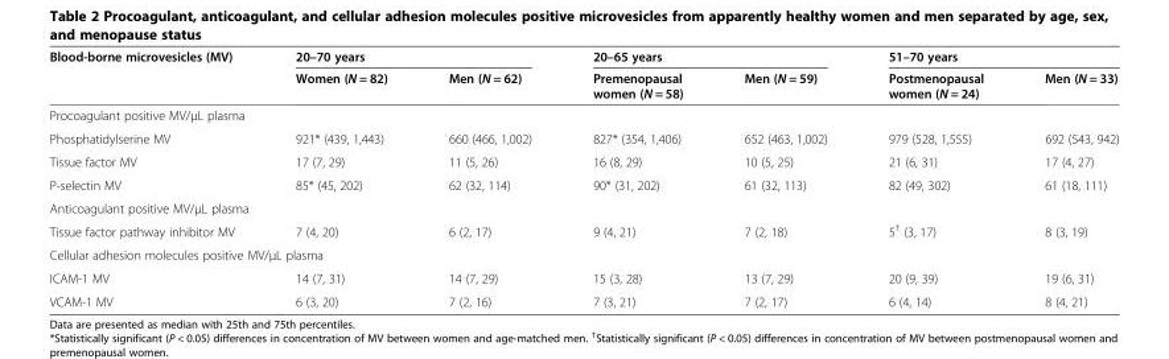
<table><thead><tr><td rowspan="2">Blood-borne microvesicles (MV)</td><td colspan="2">20–70 years</td><td colspan="2">20–65 years</td><td colspan="2">51–70 years</td></tr><tr><td>Women (N = 82)</td><td>Men (N = 62)</td><td>Premenopausal women (N = 58)</td><td>Men (N = 59)</td><td>Postmenopausal women (N = 24)</td><td>Men (N = 33)</td></tr></thead><tbody><tr><td colspan="7">Procoagulant positive MV/μL plasma</td></tr><tr><td>Phosphatidylserine MV</td><td>921* (439, 1,443)</td><td>660 (466, 1,002)</td><td>827* (354, 1,406)</td><td>652 (463, 1,002)</td><td>979 (528, 1,555)</td><td>692 (543, 942)</td></tr><tr><td>Tissue factor MV</td><td>17 (7, 29)</td><td>11 (5, 26)</td><td>16 (8, 29)</td><td>10 (5, 25)</td><td>21 (6, 31)</td><td>17 (4, 27)</td></tr><tr><td>P-selectin MV</td><td>85* (45, 202)</td><td>62 (32, 114)</td><td>90* (31, 202)</td><td>61 (32, 113)</td><td>82 (49, 302)</td><td>61 (18, 111)</td></tr><tr><td colspan="7">Anticoagulant positive MV/μL plasma</td></tr><tr><td>Tissue factor pathway inhibitor MV</td><td>7 (4, 20)</td><td>6 (2, 17)</td><td>9 (4, 21)</td><td>7 (2, 18)</td><td>5<sup>†</sup> (3, 17)</td><td>8 (3, 19)</td></tr><tr><td colspan="7">Cellular adhesion molecules positive MV/μL plasma</td></tr><tr><td>ICAM-1 MV</td><td>14 (7, 31)</td><td>14 (7, 29)</td><td>15 (3, 28)</td><td>13 (7, 29)</td><td>20 (9, 39)</td><td>19 (6, 31)</td></tr><tr><td>VCAM-1 MV</td><td>6 (3, 20)</td><td>7 (2, 16)</td><td>7 (3, 21)</td><td>7 (2, 17)</td><td>6 (4, 14)</td><td>8 (4, 21)</td></tr></tbody></table>